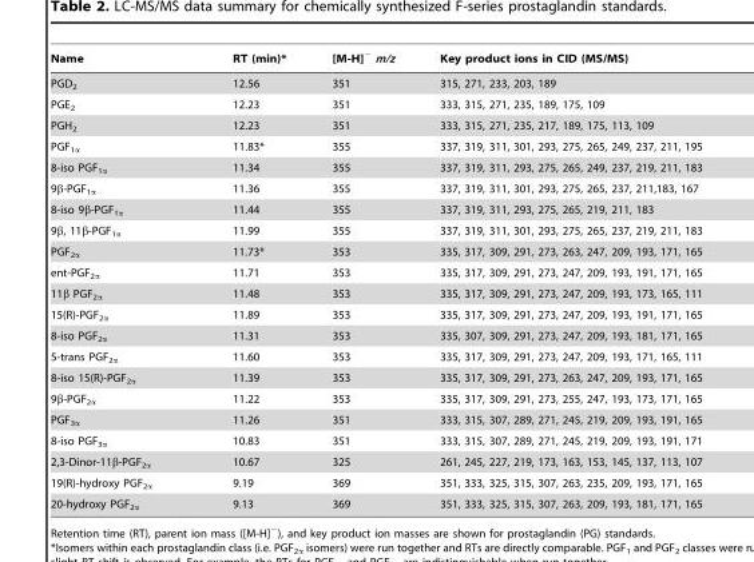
<table><thead><tr><td>Name</td><td>RT (min)*</td><td>[M-H]<sup>−</sup> m/z</td><td>Key product ions in CID (MS/MS)</td></tr></thead><tbody><tr><td>PGD<sub>2</sub></td><td>12.56</td><td>351</td><td>315, 271, 233, 203, 189</td></tr><tr><td>PGE<sub>2</sub></td><td>12.23</td><td>351</td><td>333, 315, 271, 235, 189, 175, 109</td></tr><tr><td>PGH<sub>2</sub></td><td>12.23</td><td>351</td><td>333, 315, 271, 235, 217, 189, 175, 113, 109</td></tr><tr><td>PGF<sub>1α</sub></td><td>11.83*</td><td>355</td><td>337, 319, 311, 301, 293, 275, 265, 249, 237, 211, 195</td></tr><tr><td>8-iso PGF<sub>1α</sub></td><td>11.34</td><td>355</td><td>337, 319, 311, 293, 275, 265, 249, 237, 219, 211, 183</td></tr><tr><td>9β-PGF<sub>1α</sub></td><td>11.36</td><td>355</td><td>337, 319, 311, 301, 293, 275, 265, 237, 211,183, 167</td></tr><tr><td>8-iso 9β-PGF<sub>1α</sub></td><td>11.44</td><td>355</td><td>337, 319, 311, 293, 275, 265, 219, 211, 183</td></tr><tr><td>9β, 11β-PGF<sub>1α</sub></td><td>11.99</td><td>355</td><td>337, 319, 311, 301, 293, 275, 265, 237, 219, 211, 183</td></tr><tr><td>PGF<sub>2α</sub></td><td>11.73*</td><td>353</td><td>335, 317, 309, 291, 273, 263, 247, 209, 193, 171, 165</td></tr><tr><td>ent-PGF<sub>2α</sub></td><td>11.71</td><td>353</td><td>335, 317, 309, 291, 273, 247, 209, 193, 191, 171, 165</td></tr><tr><td>11β PGF<sub>2α</sub></td><td>11.48</td><td>353</td><td>335, 317, 309, 291, 273, 247, 209, 193, 173, 165, 111</td></tr><tr><td>15(R)-PGF<sub>2α</sub></td><td>11.89</td><td>353</td><td>335, 317, 309, 291, 273, 247, 209, 193, 191, 171, 165</td></tr><tr><td>8-iso PGF<sub>2α</sub></td><td>11.31</td><td>353</td><td>335, 307, 309, 291, 273, 247, 209, 193, 181, 171, 165</td></tr><tr><td>5-trans PGF<sub>2α</sub></td><td>11.60</td><td>353</td><td>335, 317, 309, 291, 273, 247, 209, 193, 171, 165, 111</td></tr><tr><td>8-iso 15(R)-PGF<sub>2α</sub></td><td>11.39</td><td>353</td><td>335, 317, 309, 291, 273, 263, 247, 209, 193, 171, 165</td></tr><tr><td>9β-PGF<sub>2α</sub></td><td>11.22</td><td>353</td><td>335, 317, 309, 291, 273, 255, 247, 193, 173, 171, 165</td></tr><tr><td>PGF<sub>3α</sub></td><td>11.26</td><td>351</td><td>333, 315, 307, 289, 271, 245, 219, 209, 193, 191, 165</td></tr><tr><td>8-iso PGF<sub>3α</sub></td><td>10.83</td><td>351</td><td>333, 315, 307, 289, 271, 245, 219, 209, 193, 191, 171</td></tr><tr><td>2,3-Dinor-11β-PGF<sub>2α</sub></td><td>10.67</td><td>325</td><td>261, 245, 227, 219, 173, 163, 153, 145, 137, 113, 107</td></tr><tr><td>19(R)-hydroxy PGF<sub>2α</sub></td><td>9.19</td><td>369</td><td>351, 333, 325, 315, 307, 263, 235, 209, 193, 171, 165</td></tr><tr><td>20-hydroxy PGF<sub>2α</sub></td><td>9.13</td><td>369</td><td>351, 333, 325, 315, 307, 263, 209, 193, 181, 171, 165</td></tr></tbody></table>